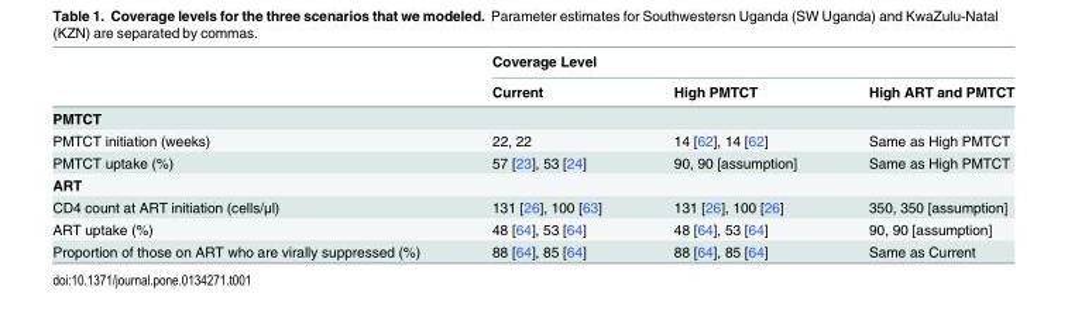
<table><thead><tr><td rowspan="2"></td><td colspan="3">Coverage Level</td></tr><tr><td>Current</td><td>High PMTCT</td><td>High ART and PMTCT</td></tr></thead><tbody><tr><td colspan="4">PMTCT</td></tr><tr><td>PMTCT initiation (weeks)</td><td>22, 22</td><td>14 [62], 14 [62]</td><td>Same as High PMTCT</td></tr><tr><td>PMTCT uptake (%)</td><td>57 [23], 53 [24]</td><td>90, 90 [assumption]</td><td>Same as High PMTCT</td></tr><tr><td colspan="4">ART</td></tr><tr><td>CD4 count at ART initiation (cells/μl)</td><td>131 [26], 100 [63]</td><td>131 [26], 100 [26]</td><td>350, 350 [assumption]</td></tr><tr><td>ART uptake (%)</td><td>48 [64], 53 [64]</td><td>48 [64], 53 [64]</td><td>90, 90 [assumption]</td></tr><tr><td>Proportion of those on ART who are virally suppressed (%)</td><td>88 [64], 85 [64]</td><td>88 [64], 85 [64]</td><td>Same as Current</td></tr></tbody></table>